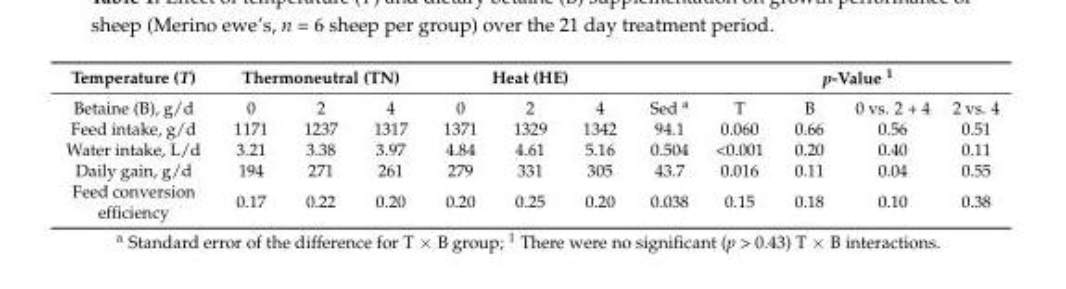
<table><thead><tr><td rowspan="2">Temperature (T) Betaine (B), g/d</td><td colspan="3">Thermoneutral (TN)</td><td colspan="3">Heat (HE)</td><td rowspan="2">Sed <sup>a</sup></td><td colspan="4">p-Value <sup>1</sup></td></tr><tr><td>0</td><td>2</td><td>4</td><td>0</td><td>2</td><td>4</td><td>T</td><td>B</td><td>0 vs. 2 + 4</td><td>2 vs. 4</td></tr></thead><tbody><tr><td>Feed intake, g/d</td><td>1171</td><td>1237</td><td>1317</td><td>1371</td><td>1329</td><td>1342</td><td>94.1</td><td>0.060</td><td>0.66</td><td>0.56</td><td>0.51</td></tr><tr><td>Water intake, L/d</td><td>3.21</td><td>3.38</td><td>3.97</td><td>4.84</td><td>4.61</td><td>5.16</td><td>0.504</td><td>&lt;0.001</td><td>0.20</td><td>0.40</td><td>0.11</td></tr><tr><td>Daily gain, g/d</td><td>194</td><td>271</td><td>261</td><td>279</td><td>331</td><td>305</td><td>43.7</td><td>0.016</td><td>0.11</td><td>0.04</td><td>0.55</td></tr><tr><td>Feed conversion efficiency</td><td>0.17</td><td>0.22</td><td>0.20</td><td>0.20</td><td>0.25</td><td>0.20</td><td>0.038</td><td>0.15</td><td>0.18</td><td>0.10</td><td>0.38</td></tr></tbody></table>